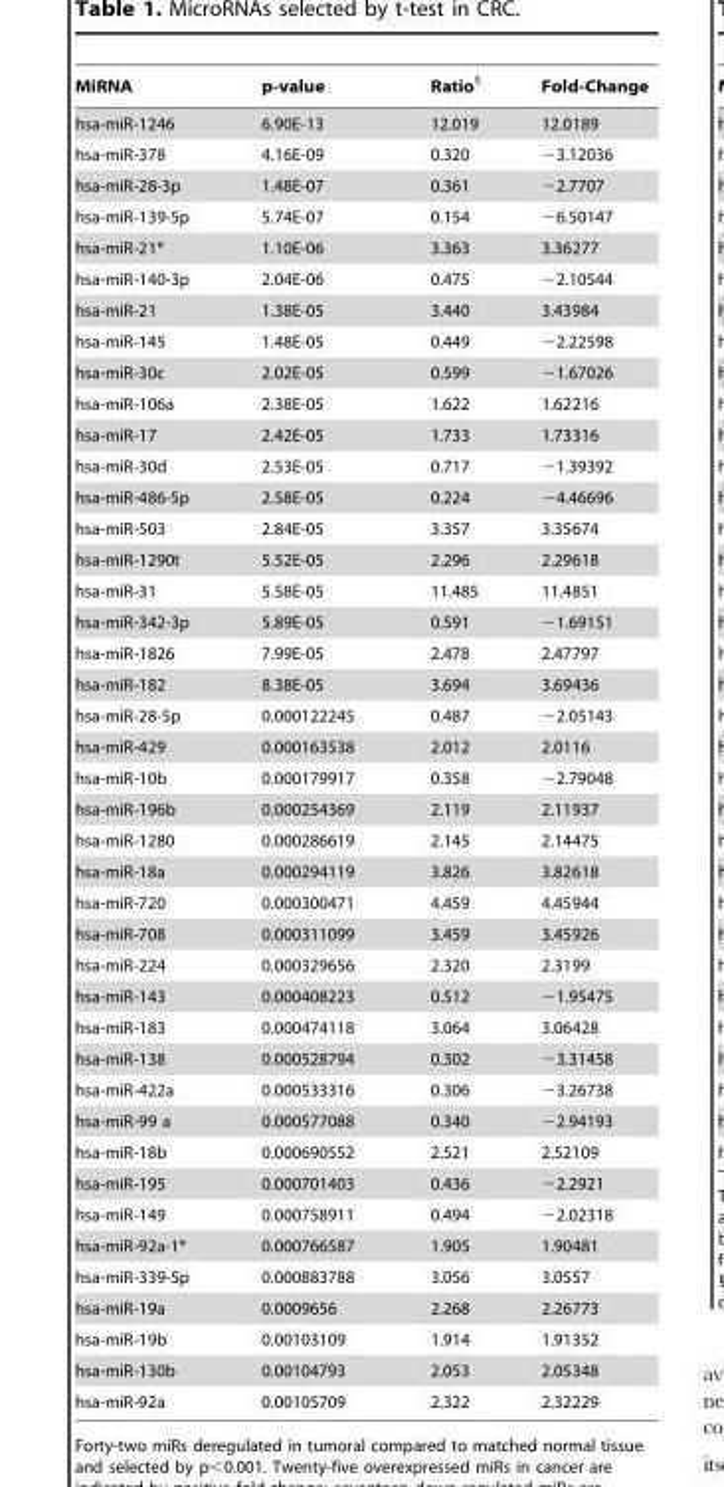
<table><thead><tr><td>MiRNA</td><td>p-value</td><td>Ratio§</td><td>Fold-Change</td></tr></thead><tbody><tr><td>hsa-miR-1246</td><td>6.90E-13</td><td>12.019</td><td>12.0189</td></tr><tr><td>hsa-miR-378</td><td>4.16E-09</td><td>0.320</td><td>−3.12036</td></tr><tr><td>hsa-miR-28-3p</td><td>1.48E-07</td><td>0.361</td><td>−2.7707</td></tr><tr><td>hsa-miR-139-5p</td><td>5.74E-07</td><td>0.154</td><td>−6.50147</td></tr><tr><td>hsa-miR-21*</td><td>1.10E-06</td><td>3.363</td><td>3.36277</td></tr><tr><td>hsa-miR-140-3p</td><td>2.04E-06</td><td>0.475</td><td>−2.10544</td></tr><tr><td>hsa-miR-21</td><td>1.38E-05</td><td>3.440</td><td>3.43984</td></tr><tr><td>hsa-miR-145</td><td>1.48E-05</td><td>0.449</td><td>−2.22598</td></tr><tr><td>hsa-miR-30c</td><td>2.02E-05</td><td>0.599</td><td>−1.67026</td></tr><tr><td>hsa-miR-106a</td><td>2.38E-05</td><td>1.622</td><td>1.62216</td></tr><tr><td>hsa-miR-17</td><td>2.42E-05</td><td>1.733</td><td>1.73316</td></tr><tr><td>hsa-miR-30d</td><td>2.53E-05</td><td>0.717</td><td>−1.39392</td></tr><tr><td>hsa-miR-486-5p</td><td>2.58E-05</td><td>0.224</td><td>−4.46696</td></tr><tr><td>hsa-miR-503</td><td>2.84E-05</td><td>3.357</td><td>3.35674</td></tr><tr><td>hsa-miR-1290t</td><td>5.52E-05</td><td>2.296</td><td>2.29618</td></tr><tr><td>hsa-miR-31</td><td>5.58E-05</td><td>11.485</td><td>11.4851</td></tr><tr><td>hsa-miR-342-3p</td><td>5.89E-05</td><td>0.591</td><td>−1.69151</td></tr><tr><td>hsa-miR-1826</td><td>7.99E-05</td><td>2.478</td><td>2.47797</td></tr><tr><td>hsa-miR-182</td><td>8.38E-05</td><td>3.694</td><td>3.69436</td></tr><tr><td>hsa-miR-28-5p</td><td>0.000122245</td><td>0.487</td><td>−2.05143</td></tr><tr><td>hsa-miR-429</td><td>0.000163538</td><td>2.012</td><td>2.0116</td></tr><tr><td>hsa-miR-10b</td><td>0.000179917</td><td>0.358</td><td>−2.79048</td></tr><tr><td>hsa-miR-196b</td><td>0.000254369</td><td>2.119</td><td>2.11937</td></tr><tr><td>hsa-miR-1280</td><td>0.000286619</td><td>2.145</td><td>2.14475</td></tr><tr><td>hsa-miR-18a</td><td>0.000294119</td><td>3.826</td><td>3.82618</td></tr><tr><td>hsa-miR-720</td><td>0.000300471</td><td>4.459</td><td>4.45944</td></tr><tr><td>hsa-miR-708</td><td>0.000311099</td><td>3.459</td><td>3.45926</td></tr><tr><td>hsa-miR-224</td><td>0.000329656</td><td>2.320</td><td>2.3199</td></tr><tr><td>hsa-miR-143</td><td>0.000408223</td><td>0.512</td><td>−1.95475</td></tr><tr><td>hsa-miR-183</td><td>0.000474118</td><td>3.064</td><td>3.06428</td></tr><tr><td>hsa-miR-138</td><td>0.000528794</td><td>0.302</td><td>−3.31458</td></tr><tr><td>hsa-miR-422a</td><td>0.000533316</td><td>0.306</td><td>−3.26738</td></tr><tr><td>hsa-miR-99 a</td><td>0.000577088</td><td>0.340</td><td>−2.94193</td></tr><tr><td>hsa-miR-18b</td><td>0.000690552</td><td>2.521</td><td>2.52109</td></tr><tr><td>hsa-miR-195</td><td>0.000701403</td><td>0.436</td><td>−2.2921</td></tr><tr><td>hsa-miR-149</td><td>0.000758911</td><td>0.494</td><td>−2.02318</td></tr><tr><td>hsa-miR-92a-1*</td><td>0.000766587</td><td>1.905</td><td>1.90481</td></tr><tr><td>hsa-miR-339-5p</td><td>0.000883788</td><td>3.056</td><td>3.0557</td></tr><tr><td>hsa-miR-19a</td><td>0.0009656</td><td>2.268</td><td>2.26773</td></tr><tr><td>hsa-miR-19b</td><td>0.00103109</td><td>1.914</td><td>1.91352</td></tr><tr><td>hsa-miR-130b</td><td>0.00104793</td><td>2.053</td><td>2.05348</td></tr><tr><td>hsa-miR-92a</td><td>0.00105709</td><td>2.322</td><td>2.32229</td></tr></tbody></table>